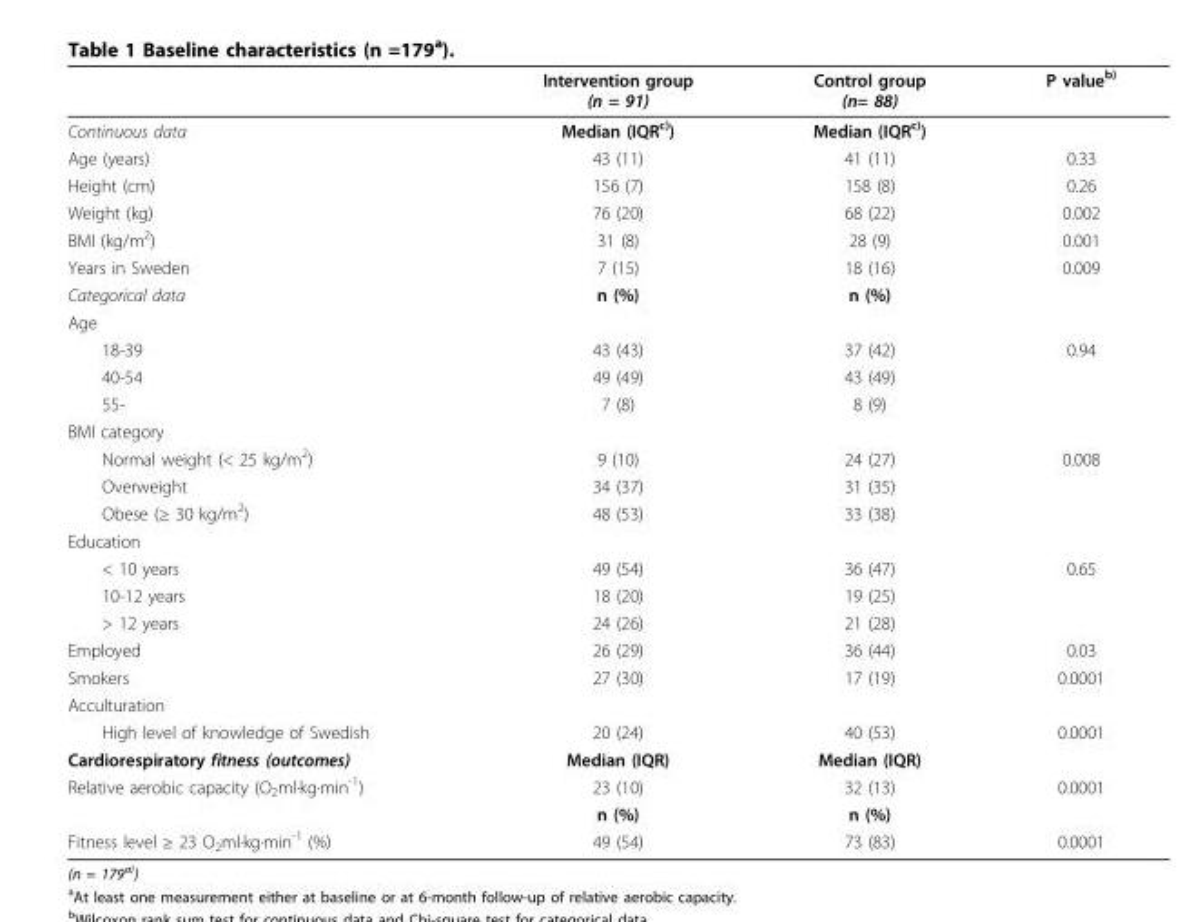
<table><thead><tr><td></td><td>Intervention group (n = 91)</td><td>Control group (n= 88)</td><td>P value<sup>b)</sup></td></tr></thead><tbody><tr><td>Continuous data</td><td>Median (IQR<sup>c)</sup>)</td><td>Median (IQR<sup>c)</sup>)</td><td></td></tr><tr><td>Age (years)</td><td>43 (11)</td><td>41 (11)</td><td>0.33</td></tr><tr><td>Height (cm)</td><td>156 (7)</td><td>158 (8)</td><td>0.26</td></tr><tr><td>Weight (kg)</td><td>76 (20)</td><td>68 (22)</td><td>0.002</td></tr><tr><td>BMI (kg/m<sup>2</sup>)</td><td>31 (8)</td><td>28 (9)</td><td>0.001</td></tr><tr><td>Years in Sweden</td><td>7 (15)</td><td>18 (16)</td><td>0.009</td></tr><tr><td>Categorical data</td><td>n (%)</td><td>n (%)</td><td></td></tr><tr><td colspan="4">Age</td></tr><tr><td>18-39</td><td>43 (43)</td><td>37 (42)</td><td>0.94</td></tr><tr><td>40-54</td><td>49 (49)</td><td>43 (49)</td><td></td></tr><tr><td>55-</td><td>7 (8)</td><td>8 (9)</td><td></td></tr><tr><td colspan="4">BMI category</td></tr><tr><td>Normal weight (&lt; 25 kg/m<sup>2</sup>)</td><td>9 (10)</td><td>24 (27)</td><td>0.008</td></tr><tr><td>Overweight</td><td>34 (37)</td><td>31 (35)</td><td></td></tr><tr><td>Obese (≥ 30 kg/m<sup>2</sup>)</td><td>48 (53)</td><td>33 (38)</td><td></td></tr><tr><td colspan="4">Education</td></tr><tr><td>&lt; 10 years</td><td>49 (54)</td><td>36 (47)</td><td>0.65</td></tr><tr><td>10-12 years</td><td>18 (20)</td><td>19 (25)</td><td></td></tr><tr><td>&gt; 12 years</td><td>24 (26)</td><td>21 (28)</td><td></td></tr><tr><td>Employed</td><td>26 (29)</td><td>36 (44)</td><td>0.03</td></tr><tr><td>Smokers</td><td>27 (30)</td><td>17 (19)</td><td>0.0001</td></tr><tr><td colspan="4">Acculturation</td></tr><tr><td>High level of knowledge of Swedish</td><td>20 (24)</td><td>40 (53)</td><td>0.0001</td></tr><tr><td>Cardiorespiratory fitness (outcomes)</td><td>Median (IQR)</td><td>Median (IQR)</td><td></td></tr><tr><td rowspan="2">Relative aerobic capacity (O<sub>2</sub>ml·kg·min<sup>-1</sup>)</td><td>23 (10)</td><td>32 (13)</td><td>0.0001</td></tr><tr><td>n (%)</td><td>n (%)</td><td></td></tr><tr><td>Fitness level ≥ 23 O<sub>2</sub>ml·kg·min<sup>-1</sup> (%)</td><td>49 (54)</td><td>73 (83)</td><td>0.0001</td></tr></tbody></table>